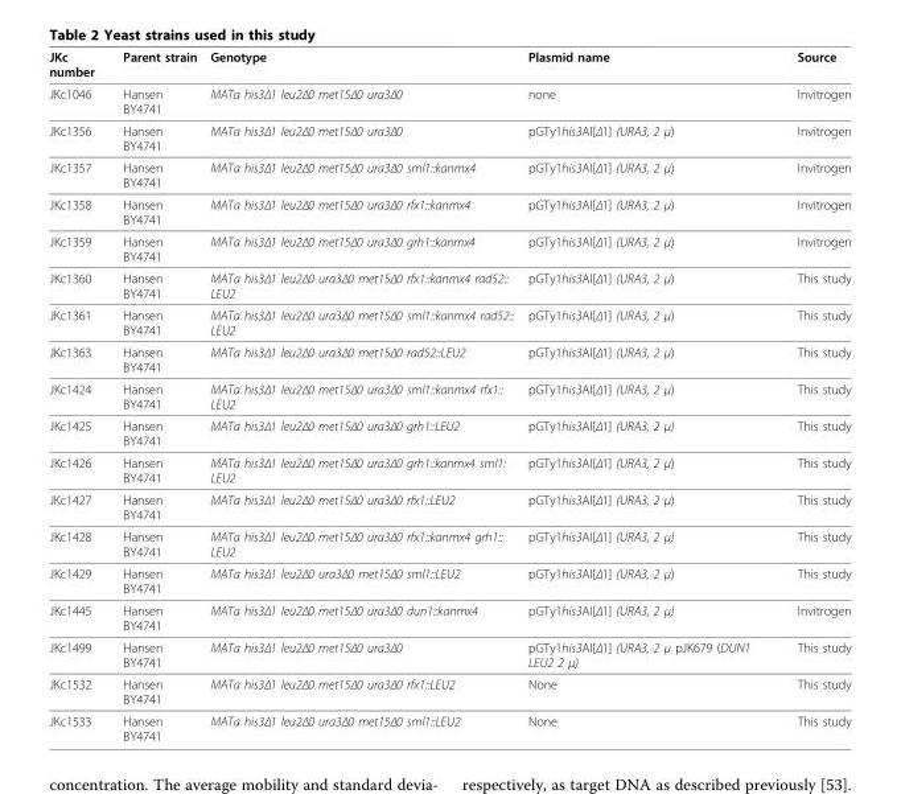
<table><thead><tr><td>JKc number</td><td>Parent strain</td><td>Genotype</td><td>Plasmid name</td><td>Source</td></tr></thead><tbody><tr><td>JKc1046</td><td>Hansen BY4741</td><td>MATa his3Δ1 leu2Δ0 met15Δ0 ura3Δ0</td><td>none</td><td>Invitrogen</td></tr><tr><td>JKc1356</td><td>Hansen BY4741</td><td>MATa his3Δ1 leu2Δ0 met15Δ0 ura3Δ0</td><td>pGTy1his3AI[Δ1] (URA3, 2 μ)</td><td>Invitrogen</td></tr><tr><td>JKc1357</td><td>Hansen BY4741</td><td>MATa his3Δ1 leu2Δ0 met15Δ0 ura3Δ0 sml1::kanmx4</td><td>pGTy1his3AI[Δ1] (URA3, 2 μ)</td><td>Invitrogen</td></tr><tr><td>JKc1358</td><td>Hansen BY4741</td><td>MATa his3Δ1 leu2Δ0 met15Δ0 ura3Δ0 rfx1::kanmx4</td><td>pGTy1his3AI[Δ1] (URA3, 2 μ)</td><td>Invitrogen</td></tr><tr><td>JKc1359</td><td>Hansen BY4741</td><td>MATa his3Δ1 leu2Δ0 met15Δ0 ura3Δ0 grh1::kanmx4</td><td>pGTy1his3AI[Δ1] (URA3, 2 μ)</td><td>Invitrogen</td></tr><tr><td>JKc1360</td><td>Hansen BY4741</td><td>MATa his3Δ1 leu2Δ0 ura3Δ0 met15Δ0 rfx1::kanmx4 rad52:: LEU2</td><td>pGTy1his3AI[Δ1] (URA3, 2 μ)</td><td>This study</td></tr><tr><td>JKc1361</td><td>Hansen BY4741</td><td>MATa his3Δ1 leu2Δ0 ura3Δ0 met15Δ0 sml1::kanmx4 rad52:: LEU2</td><td>pGTy1his3AI[Δ1] (URA3, 2 μ)</td><td>This study</td></tr><tr><td>JKc1363</td><td>Hansen BY4741</td><td>MATa his3Δ1 leu2Δ0 ura3Δ0 met15Δ0 rad52::LEU2</td><td>pGTy1his3AI[Δ1] (URA3, 2 μ)</td><td>This study</td></tr><tr><td>JKc1424</td><td>Hansen BY4741</td><td>MATa his3Δ1 leu2Δ0 met15Δ0 ura3Δ0 sml1::kanmx4 rfx1:: LEU2</td><td>pGTy1his3AI[Δ1] (URA3, 2 μ)</td><td>This study</td></tr><tr><td>JKc1425</td><td>Hansen BY4741</td><td>MATa his3Δ1 leu2Δ0 met15Δ0 ura3Δ0 grh1::LEU2</td><td>pGTy1his3AI[Δ1] (URA3, 2 μ)</td><td>This study</td></tr><tr><td>JKc1426</td><td>Hansen BY4741</td><td>MATa his3Δ1 leu2Δ0 met15Δ0 ura3Δ0 grh1::kanmx4 sml1: LEU2</td><td>pGTy1his3AI[Δ1] (URA3, 2 μ)</td><td>This study</td></tr><tr><td>JKc1427</td><td>Hansen BY4741</td><td>MATa his3Δ1 leu2Δ0 met15Δ0 ura3Δ0 rfx1::LEU2</td><td>pGTy1his3AI[Δ1] (URA3, 2 μ)</td><td>This study</td></tr><tr><td>JKc1428</td><td>Hansen BY4741</td><td>MATa his3Δ1 leu2Δ0 met15Δ0 ura3Δ0 rfx1::kanmx4 grh1:: LEU2</td><td>pGTy1his3AI[Δ1] (URA3, 2 μ)</td><td>This study</td></tr><tr><td>JKc1429</td><td>Hansen BY4741</td><td>MATa his3Δ1 leu2Δ0 ura3Δ0 met15Δ0 sml1::LEU2</td><td>pGTy1his3AI[Δ1] (URA3, 2 μ)</td><td>This study</td></tr><tr><td>JKc1445</td><td>Hansen BY4741</td><td>MATa his3Δ1 leu2Δ0 met15Δ0 ura3Δ0 dun1::kanmx4</td><td>pGTy1his3AI[Δ1] (URA3, 2 μ)</td><td>Invitrogen</td></tr><tr><td>JKc1499</td><td>Hansen BY4741</td><td>MATa his3Δ1 leu2Δ0 met15Δ0 ura3Δ0</td><td>pGTy1his3AI[Δ1] (URA3, 2 μ pJK679 (DUN1 LEU2 2 μ)</td><td>This study</td></tr><tr><td>JKc1532</td><td>Hansen BY4741</td><td>MATa his3Δ1 leu2Δ0 met15Δ0 ura3Δ0 rfx1::LEU2</td><td>None</td><td>This study</td></tr><tr><td>JKc1533</td><td>Hansen BY4741</td><td>MATa his3Δ1 leu2Δ0 ura3Δ0 met15Δ0 sml1::LEU2</td><td>None</td><td>This study</td></tr></tbody></table>